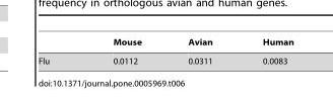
<table><thead><tr><td></td><td>Mouse</td><td>Avian</td><td>Human</td></tr></thead><tbody><tr><td>Flu</td><td>0.0112</td><td>0.0311</td><td>0.0083</td></tr></tbody></table>